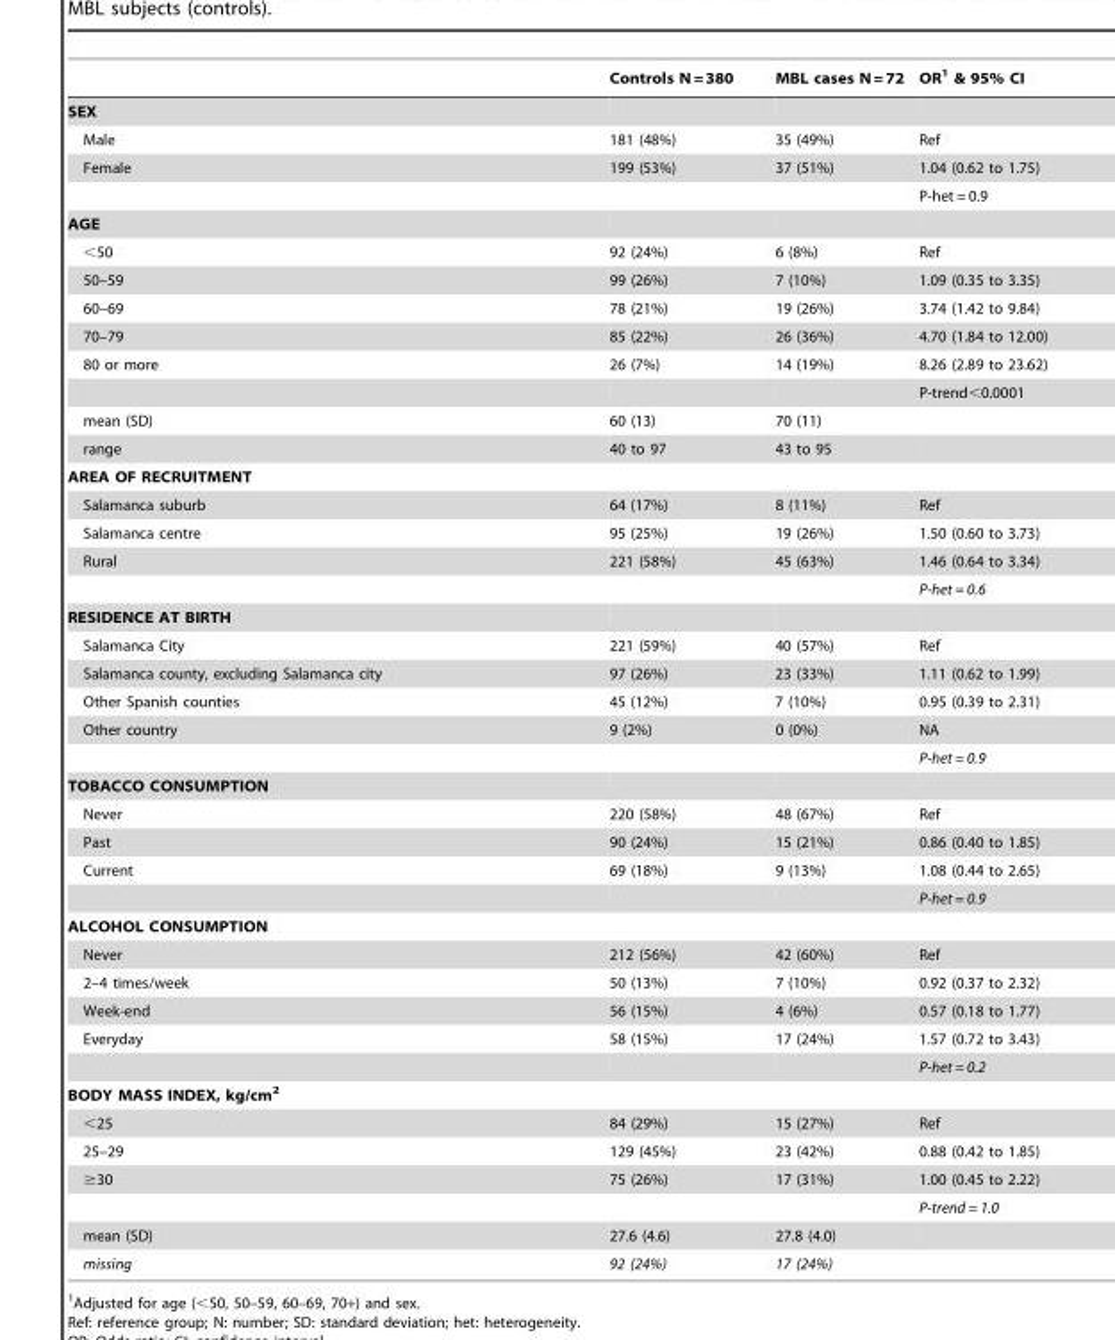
<table><thead><tr><td></td><td>Controls N = 380</td><td>MBL cases N = 72</td><td>OR<sup>1</sup> &amp; 95% CI</td></tr></thead><tbody><tr><td colspan="4">SEX</td></tr><tr><td>Male</td><td>181 (48%)</td><td>35 (49%)</td><td>Ref</td></tr><tr><td rowspan="2">Female</td><td>199 (53%)</td><td>37 (51%)</td><td>1.04 (0.62 to 1.75)</td></tr><tr><td></td><td></td><td>P-het = 0.9</td></tr><tr><td colspan="4">AGE</td></tr><tr><td>&lt;50</td><td>92 (24%)</td><td>6 (8%)</td><td>Ref</td></tr><tr><td>50–59</td><td>99 (26%)</td><td>7 (10%)</td><td>1.09 (0.35 to 3.35)</td></tr><tr><td>60–69</td><td>78 (21%)</td><td>19 (26%)</td><td>3.74 (1.42 to 9.84)</td></tr><tr><td>70–79</td><td>85 (22%)</td><td>26 (36%)</td><td>4.70 (1.84 to 12.00)</td></tr><tr><td rowspan="2">80 or more</td><td>26 (7%)</td><td>14 (19%)</td><td>8.26 (2.89 to 23.62)</td></tr><tr><td></td><td></td><td>P-trend&lt;0.0001</td></tr><tr><td>mean (SD)</td><td>60 (13)</td><td>70 (11)</td><td></td></tr><tr><td>range</td><td>40 to 97</td><td>43 to 95</td><td></td></tr><tr><td colspan="4">AREA OF RECRUITMENT</td></tr><tr><td>Salamanca suburb</td><td>64 (17%)</td><td>8 (11%)</td><td>Ref</td></tr><tr><td>Salamanca centre</td><td>95 (25%)</td><td>19 (26%)</td><td>1.50 (0.60 to 3.73)</td></tr><tr><td rowspan="2">Rural</td><td>221 (58%)</td><td>45 (63%)</td><td>1.46 (0.64 to 3.34)</td></tr><tr><td></td><td></td><td>P-het = 0.6</td></tr><tr><td colspan="4">RESIDENCE AT BIRTH</td></tr><tr><td>Salamanca City</td><td>221 (59%)</td><td>40 (57%)</td><td>Ref</td></tr><tr><td>Salamanca county, excluding Salamanca city</td><td>97 (26%)</td><td>23 (33%)</td><td>1.11 (0.62 to 1.99)</td></tr><tr><td>Other Spanish counties</td><td>45 (12%)</td><td>7 (10%)</td><td>0.95 (0.39 to 2.31)</td></tr><tr><td rowspan="2">Other country</td><td>9 (2%)</td><td>0 (0%)</td><td>NA</td></tr><tr><td></td><td></td><td>P-het = 0.9</td></tr><tr><td colspan="4">TOBACCO CONSUMPTION</td></tr><tr><td>Never</td><td>220 (58%)</td><td>48 (67%)</td><td>Ref</td></tr><tr><td>Past</td><td>90 (24%)</td><td>15 (21%)</td><td>0.86 (0.40 to 1.85)</td></tr><tr><td rowspan="2">Current</td><td>69 (18%)</td><td>9 (13%)</td><td>1.08 (0.44 to 2.65)</td></tr><tr><td></td><td></td><td>P-het = 0.9</td></tr><tr><td colspan="4">ALCOHOL CONSUMPTION</td></tr><tr><td>Never</td><td>212 (56%)</td><td>42 (60%)</td><td>Ref</td></tr><tr><td>2–4 times/week</td><td>50 (13%)</td><td>7 (10%)</td><td>0.92 (0.37 to 2.32)</td></tr><tr><td>Week-end</td><td>56 (15%)</td><td>4 (6%)</td><td>0.57 (0.18 to 1.77)</td></tr><tr><td rowspan="2">Everyday</td><td>58 (15%)</td><td>17 (24%)</td><td>1.57 (0.72 to 3.43)</td></tr><tr><td></td><td></td><td>P-het = 0.2</td></tr><tr><td colspan="4">BODY MASS INDEX, kg/cm<sup>2</sup></td></tr><tr><td>&lt;25</td><td>84 (29%)</td><td>15 (27%)</td><td>Ref</td></tr><tr><td>25–29</td><td>129 (45%)</td><td>23 (42%)</td><td>0.88 (0.42 to 1.85)</td></tr><tr><td rowspan="2">≥30</td><td>75 (26%)</td><td>17 (31%)</td><td>1.00 (0.45 to 2.22)</td></tr><tr><td></td><td></td><td>P-trend = 1.0</td></tr><tr><td>mean (SD)</td><td>27.6 (4.6)</td><td>27.8 (4.0)</td><td></td></tr><tr><td>missing</td><td>92 (24%)</td><td>17 (24%)</td><td></td></tr></tbody></table>